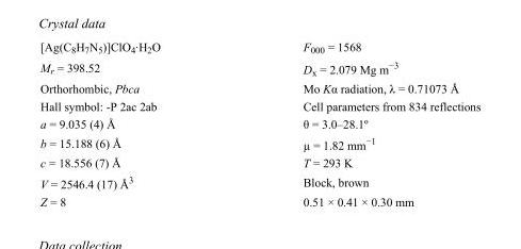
<table><tbody><tr><td>[Ag(C<sub>8</sub>H<sub>7</sub>N<sub>5</sub>)]ClO<sub>4</sub>·H<sub>2</sub>O</td><td>F000 = 1568</td></tr><tr><td>M<sub>r</sub> = 398.52</td><td>D<sub>x</sub> = 2.079 Mg m<sup>−3</sup></td></tr><tr><td>Orthorhombic, Pbca</td><td>Mo Kα radiation, λ = 0.71073 Å</td></tr><tr><td>Hall symbol: -P 2ac 2ab</td><td>Cell parameters from 834 reflections</td></tr><tr><td>a = 9.035 (4) Å</td><td>θ = 3.0–28.1º</td></tr><tr><td>b = 15.188 (6) Å</td><td>µ = 1.82 mm<sup>−1</sup></td></tr><tr><td>c = 18.556 (7) Å</td><td>T = 293 K</td></tr><tr><td>V = 2546.4 (17) Å<sup>3</sup></td><td>Block, brown</td></tr><tr><td>Z = 8</td><td>0.51 × 0.41 × 0.30 mm</td></tr></tbody></table>